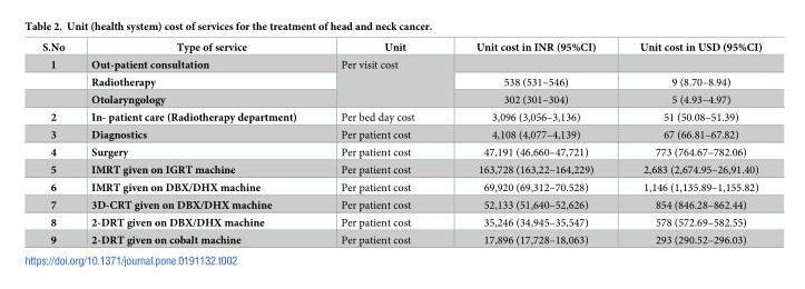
<table><thead><tr><td>S.No</td><td>Type of service</td><td>Unit</td><td>Unit cost in INR (95%CI)</td><td>Unit cost in USD (95%CI)</td></tr></thead><tbody><tr><td rowspan="3">1</td><td>Out-patient consultation</td><td rowspan="3">Per visit cost</td><td></td><td></td></tr><tr><td>Radiotherapy</td><td>538 (531–546)</td><td>9 (8.70–8.94)</td></tr><tr><td>Otolaryngology</td><td>302 (301–304)</td><td>5 (4.93–4.97)</td></tr><tr><td>2</td><td>In- patient care (Radiotherapy department)</td><td>Per bed day cost</td><td>3,096 (3,056–3,136)</td><td>51 (50.08–51.39)</td></tr><tr><td>3</td><td>Diagnostics</td><td>Per patient cost</td><td>4,108 (4,077–4,139)</td><td>67 (66.81–67.82)</td></tr><tr><td>4</td><td>Surgery</td><td>Per patient cost</td><td>47,191 (46,660–47,721)</td><td>773 (764.67–782.06)</td></tr><tr><td>5</td><td>IMRT given on IGRT machine</td><td>Per patient cost</td><td>163,728 (163,22–164,229)</td><td>2,683 (2,674.95–26,91.40)</td></tr><tr><td>6</td><td>IMRT given on DBX/DHX machine</td><td>Per patient cost</td><td>69,920 (69,312–70.528)</td><td>1,146 (1,135.89–1,155.82)</td></tr><tr><td>7</td><td>3D-CRT given on DBX/DHX machine</td><td>Per patient cost</td><td>52,133 (51,640–52,626)</td><td>854 (846.28–862.44)</td></tr><tr><td>8</td><td>2-DRT given on DBX/DHX machine</td><td>Per patient cost</td><td>35,246 (34,945–35,547)</td><td>578 (572.69–582.55)</td></tr><tr><td>9</td><td>2-DRT given on cobalt machine</td><td>Per patient cost</td><td>17,896 (17,728–18,063)</td><td>293 (290.52–296.03)</td></tr></tbody></table>